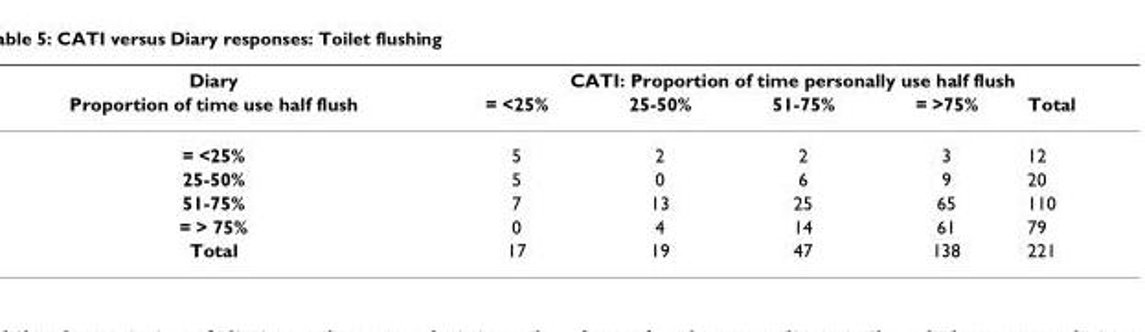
<table><thead><tr><td rowspan="2">Diary Proportion of time use half flush</td><td colspan="5">CATI: Proportion of time personally use half flush</td></tr><tr><td>= &lt;25%</td><td>25-50%</td><td>51-75%</td><td>= &gt;75%</td><td>Total</td></tr></thead><tbody><tr><td>= &lt;25%</td><td>5</td><td>2</td><td>2</td><td>3</td><td>12</td></tr><tr><td>25-50%</td><td>5</td><td>0</td><td>6</td><td>9</td><td>20</td></tr><tr><td>51-75%</td><td>7</td><td>13</td><td>25</td><td>65</td><td>110</td></tr><tr><td>= &gt; 75%</td><td>0</td><td>4</td><td>14</td><td>61</td><td>79</td></tr><tr><td>Total</td><td>17</td><td>19</td><td>47</td><td>138</td><td>221</td></tr></tbody></table>